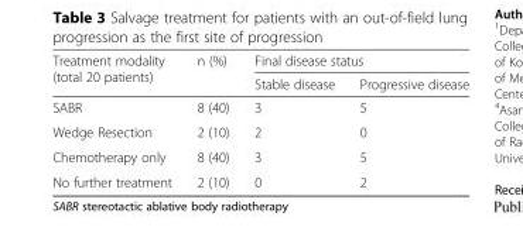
<table><thead><tr><td rowspan="2">Treatment modality (total 20 patients)</td><td rowspan="2">n (%)</td><td colspan="2">Final disease status</td></tr><tr><td>Stable disease</td><td>Progressive disease</td></tr></thead><tbody><tr><td>SABR</td><td>8 (40)</td><td>3</td><td>5</td></tr><tr><td>Wedge Resection</td><td>2 (10)</td><td>2</td><td>0</td></tr><tr><td>Chemotherapy only</td><td>8 (40)</td><td>3</td><td>5</td></tr><tr><td>No further treatment</td><td>2 (10)</td><td>0</td><td>2</td></tr></tbody></table>